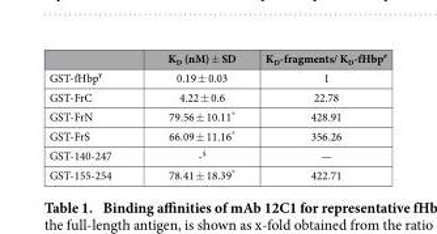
<table><thead><tr><td></td><td>K<sub>D</sub> (nM) ± SD</td><td>K<sub>D</sub>-fragments/ K<sub>D</sub>-fHbp<sup>#</sup></td></tr></thead><tbody><tr><td>GST-fHbp<sup>¥</sup></td><td>0.19 ± 0.03</td><td>1</td></tr><tr><td>GST-FrC</td><td>4.22 ± 0.6</td><td>22.78</td></tr><tr><td>GST-FrN</td><td>79.56 ± 10.11*</td><td>428.91</td></tr><tr><td>GST-FrS</td><td>66.09 ± 11.16*</td><td>356.26</td></tr><tr><td>GST-140-247</td><td>-<sup>§</sup></td><td>—</td></tr><tr><td>GST-155-254</td><td>78.41 ± 18.39*</td><td>422.71</td></tr></tbody></table>